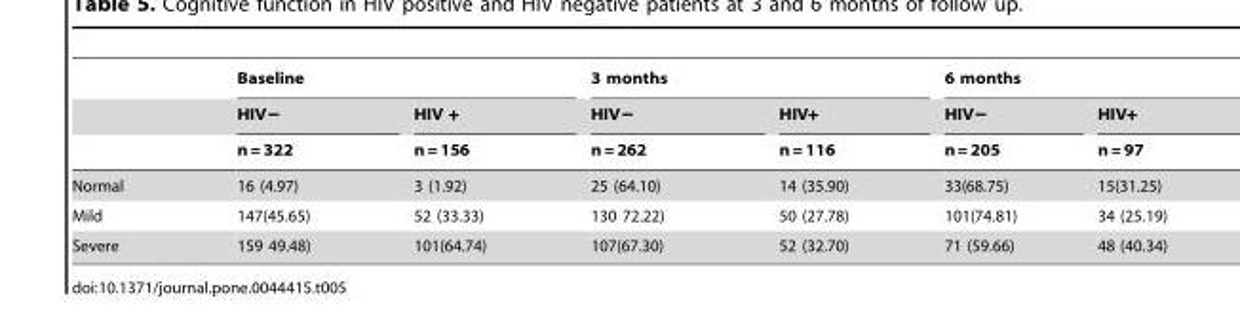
<table><thead><tr><td rowspan="3"></td><td colspan="2">Baseline</td><td colspan="2">3 months</td><td colspan="2">6 months</td></tr><tr><td rowspan="2">HIV− n = 322</td><td rowspan="2">HIV + n = 156</td><td rowspan="2">HIV− n = 262</td><td rowspan="2">HIV+ n = 116</td><td rowspan="2">HIV− n = 205</td><td rowspan="2">HIV+ n = 97</td></tr><tr></tr></thead><tbody><tr><td>Normal</td><td>16 (4.97)</td><td>3 (1.92)</td><td>25 (64.10)</td><td>14 (35.90)</td><td>33(68.75)</td><td>15(31.25)</td></tr><tr><td>Mild</td><td>147(45.65)</td><td>52 (33.33)</td><td>130 72.22)</td><td>50 (27.78)</td><td>101(74.81)</td><td>34 (25.19)</td></tr><tr><td>Severe</td><td>159 49.48)</td><td>101(64.74)</td><td>107(67.30)</td><td>52 (32.70)</td><td>71 (59.66)</td><td>48 (40.34)</td></tr></tbody></table>